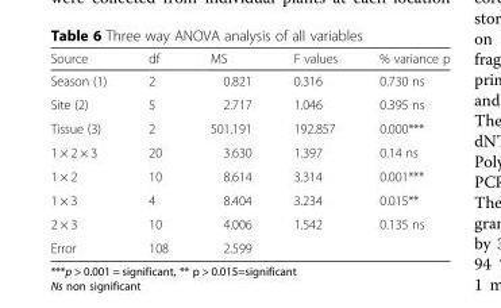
<table><thead><tr><td>Source</td><td>df</td><td>MS</td><td>F values</td><td>% variance p</td></tr></thead><tbody><tr><td>Season (1)</td><td>2</td><td>0.821</td><td>0.316</td><td>0.730 ns</td></tr><tr><td>Site (2)</td><td>5</td><td>2.717</td><td>1.046</td><td>0.395 ns</td></tr><tr><td>Tissue (3)</td><td>2</td><td>501.191</td><td>192.857</td><td>0.000***</td></tr><tr><td>1 × 2 × 3</td><td>20</td><td>3.630</td><td>1.397</td><td>0.14 ns</td></tr><tr><td>1 × 2</td><td>10</td><td>8.614</td><td>3.314</td><td>0.001***</td></tr><tr><td>1 × 3</td><td>4</td><td>8.404</td><td>3.234</td><td>0.015**</td></tr><tr><td>2 × 3</td><td>10</td><td>4.006</td><td>1.542</td><td>0.135 ns</td></tr><tr><td>Error</td><td>108</td><td>2.599</td><td></td><td></td></tr></tbody></table>